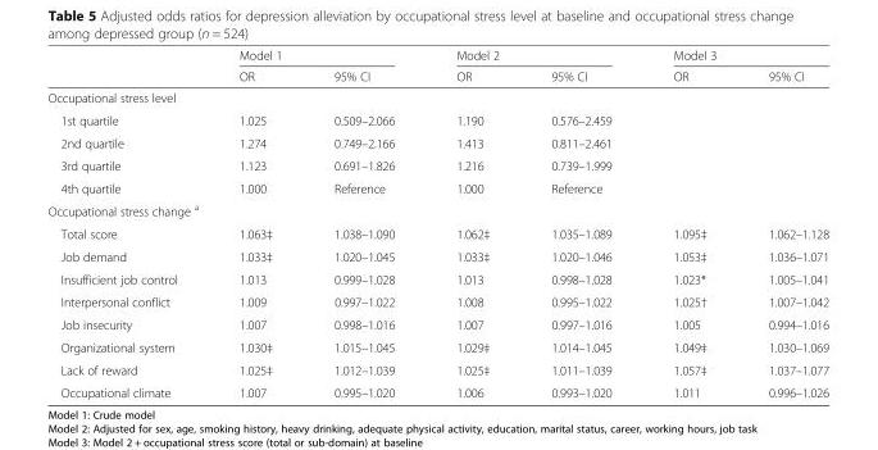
<table><thead><tr><td rowspan="2"></td><td colspan="2">Model 1</td><td colspan="2">Model 2</td><td colspan="2">Model 3</td></tr><tr><td>OR</td><td>95% CI</td><td>OR</td><td>95% CI</td><td>OR</td><td>95% CI</td></tr></thead><tbody><tr><td colspan="7">Occupational stress level</td></tr><tr><td>1st quartile</td><td>1.025</td><td>0.509–2.066</td><td>1.190</td><td>0.576–2.459</td><td></td><td></td></tr><tr><td>2nd quartile</td><td>1.274</td><td>0.749–2.166</td><td>1.413</td><td>0.811–2.461</td><td></td><td></td></tr><tr><td>3rd quartile</td><td>1.123</td><td>0.691–1.826</td><td>1.216</td><td>0.739–1.999</td><td></td><td></td></tr><tr><td>4th quartile</td><td>1.000</td><td>Reference</td><td>1.000</td><td>Reference</td><td></td><td></td></tr><tr><td colspan="7">Occupational stress change <sup>a</sup></td></tr><tr><td>Total score</td><td>1.063‡</td><td>1.038–1.090</td><td>1.062‡</td><td>1.035–1.089</td><td>1.095‡</td><td>1.062–1.128</td></tr><tr><td>Job demand</td><td>1.033‡</td><td>1.020–1.045</td><td>1.033‡</td><td>1.020–1.046</td><td>1.053‡</td><td>1.036–1.071</td></tr><tr><td>Insufficient job control</td><td>1.013</td><td>0.999–1.028</td><td>1.013</td><td>0.998–1.028</td><td>1.023*</td><td>1.005–1.041</td></tr><tr><td>Interpersonal conflict</td><td>1.009</td><td>0.997–1.022</td><td>1.008</td><td>0.995–1.022</td><td>1.025†</td><td>1.007–1.042</td></tr><tr><td>Job insecurity</td><td>1.007</td><td>0.998–1.016</td><td>1.007</td><td>0.997–1.016</td><td>1.005</td><td>0.994–1.016</td></tr><tr><td>Organizational system</td><td>1.030‡</td><td>1.015–1.045</td><td>1.029‡</td><td>1.014–1.045</td><td>1.049‡</td><td>1.030–1.069</td></tr><tr><td>Lack of reward</td><td>1.025‡</td><td>1.012–1.039</td><td>1.025‡</td><td>1.011–1.039</td><td>1.057‡</td><td>1.037–1.077</td></tr><tr><td>Occupational climate</td><td>1.007</td><td>0.995–1.020</td><td>1.006</td><td>0.993–1.020</td><td>1.011</td><td>0.996–1.026</td></tr></tbody></table>